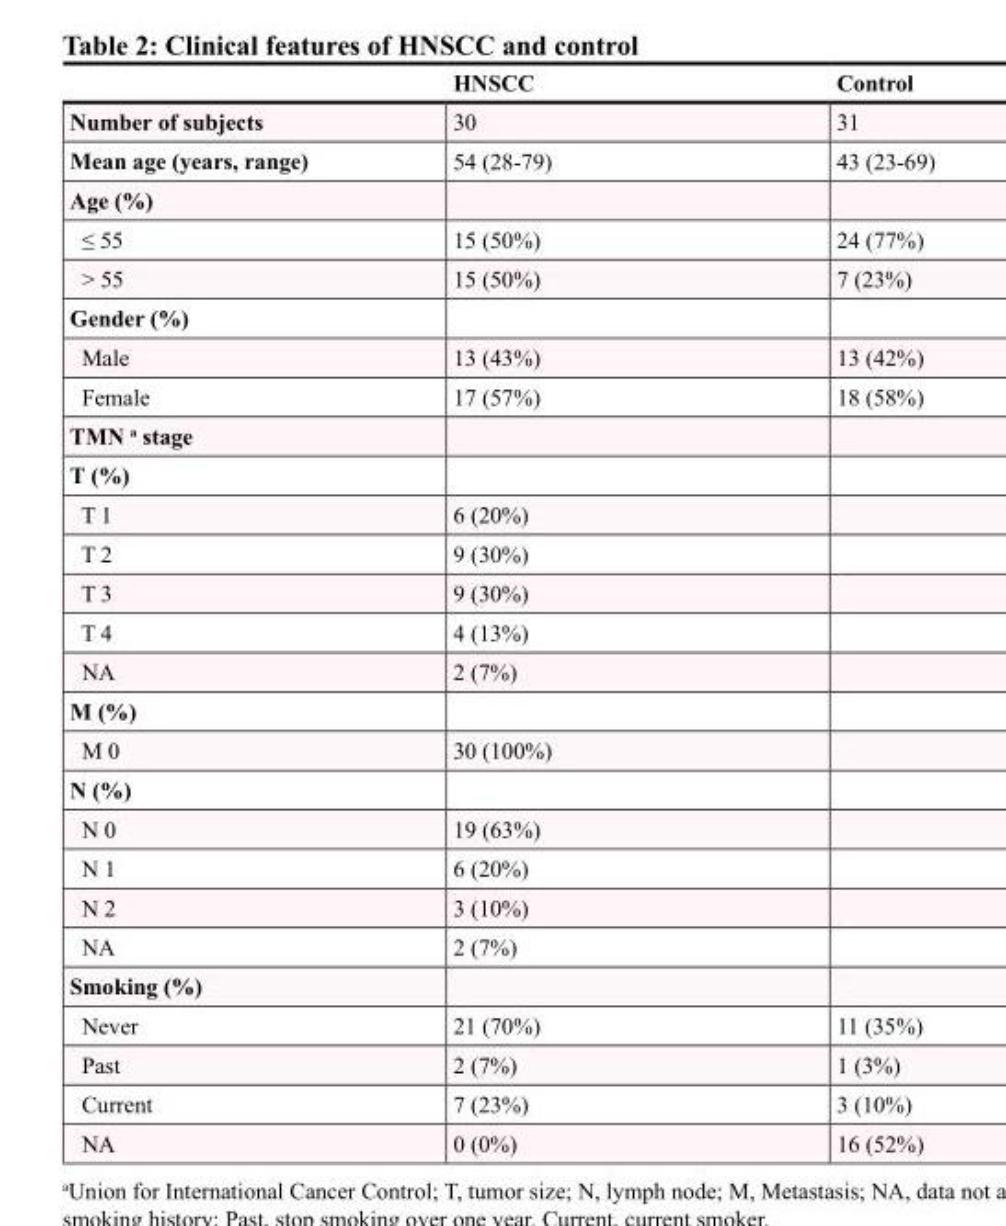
<table><thead><tr><td></td><td>HNSCC</td><td>Control</td></tr></thead><tbody><tr><td>Number of subjects</td><td>30</td><td>31</td></tr><tr><td>Mean age (years, range)</td><td>54 (28-79)</td><td>43 (23-69)</td></tr><tr><td colspan="3">Age (%)</td></tr><tr><td>≤ 55</td><td>15 (50%)</td><td>24 (77%)</td></tr><tr><td>&gt; 55</td><td>15 (50%)</td><td>7 (23%)</td></tr><tr><td colspan="3">Gender (%)</td></tr><tr><td>Male</td><td>13 (43%)</td><td>13 (42%)</td></tr><tr><td>Female</td><td>17 (57%)</td><td>18 (58%)</td></tr><tr><td colspan="3">TMN <sup>a</sup> stage</td></tr><tr><td colspan="3">T (%)</td></tr><tr><td>T 1</td><td>6 (20%)</td><td></td></tr><tr><td>T 2</td><td>9 (30%)</td><td></td></tr><tr><td>T 3</td><td>9 (30%)</td><td></td></tr><tr><td>T 4</td><td>4 (13%)</td><td></td></tr><tr><td>NA</td><td>2 (7%)</td><td></td></tr><tr><td colspan="3">M (%)</td></tr><tr><td>M 0</td><td>30 (100%)</td><td></td></tr><tr><td colspan="3">N (%)</td></tr><tr><td>N 0</td><td>19 (63%)</td><td></td></tr><tr><td>N 1</td><td>6 (20%)</td><td></td></tr><tr><td>N 2</td><td>3 (10%)</td><td></td></tr><tr><td>NA</td><td>2 (7%)</td><td></td></tr><tr><td colspan="3">Smoking (%)</td></tr><tr><td>Never</td><td>21 (70%)</td><td>11 (35%)</td></tr><tr><td>Past</td><td>2 (7%)</td><td>1 (3%)</td></tr><tr><td>Current</td><td>7 (23%)</td><td>3 (10%)</td></tr><tr><td>NA</td><td>0 (0%)</td><td>16 (52%)</td></tr></tbody></table>